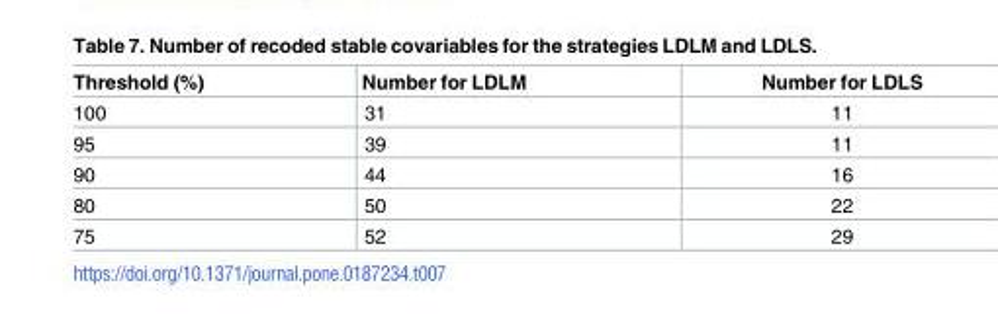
<table><thead><tr><td>Threshold (%)</td><td>Number for LDLM</td><td>Number for LDLS</td></tr></thead><tbody><tr><td>100</td><td>31</td><td>11</td></tr><tr><td>95</td><td>39</td><td>11</td></tr><tr><td>90</td><td>44</td><td>16</td></tr><tr><td>80</td><td>50</td><td>22</td></tr><tr><td>75</td><td>52</td><td>29</td></tr></tbody></table>